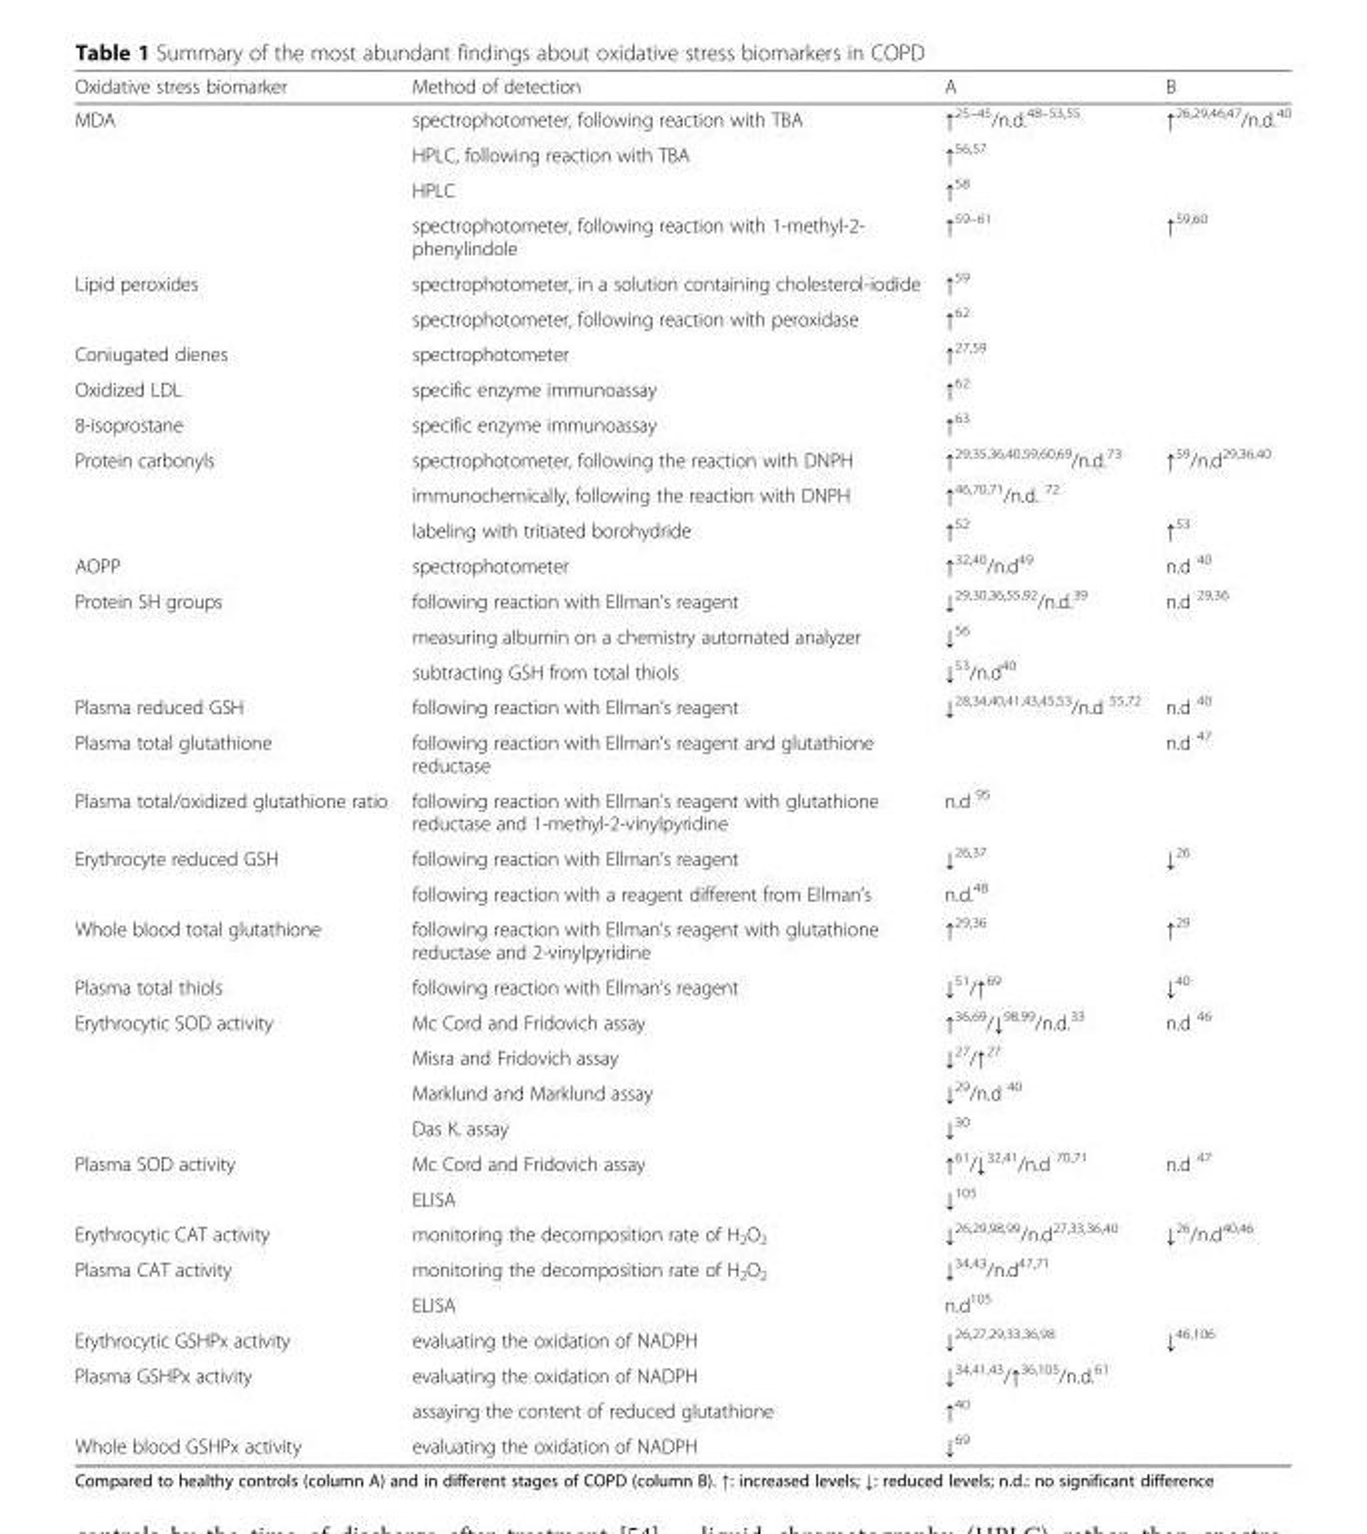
<table><thead><tr><td>Oxidative stress biomarker</td><td>Method of detection</td><td>A</td><td>B</td></tr></thead><tbody><tr><td rowspan="4">MDA</td><td>spectrophotometer, following reaction with TBA</td><td>↑<sup>25–45</sup>/n.d.<sup>48–53,55</sup></td><td>↑<sup>26,29,46,47</sup>/n.d.<sup>40</sup></td></tr><tr><td>HPLC, following reaction with TBA</td><td>↑<sup>56,57</sup></td><td></td></tr><tr><td>HPLC</td><td>↑<sup>58</sup></td><td></td></tr><tr><td>spectrophotometer, following reaction with 1-methyl-2- phenylindole</td><td>↑<sup>59–61</sup></td><td>↑<sup>59,60</sup></td></tr><tr><td rowspan="2">Lipid peroxides</td><td>spectrophotometer, in a solution containing cholesterol-iodide</td><td>↑<sup>59</sup></td><td></td></tr><tr><td>spectrophotometer, following reaction with peroxidase</td><td>↑<sup>62</sup></td><td></td></tr><tr><td>Coniugated dienes</td><td>spectrophotometer</td><td>↑<sup>27,59</sup></td><td></td></tr><tr><td>Oxidized LDL</td><td>specific enzyme immunoassay</td><td>↑<sup>62</sup></td><td></td></tr><tr><td>8-isoprostane</td><td>specific enzyme immunoassay</td><td>↑<sup>63</sup></td><td></td></tr><tr><td rowspan="3">Protein carbonyls</td><td>spectrophotometer, following the reaction with DNPH</td><td>↑<sup>29,35,36,40,59,60,69</sup>/n.d.<sup>73</sup></td><td>↑<sup>59</sup>/n.d<sup>29,36,40</sup></td></tr><tr><td>immunochemically, following the reaction with DNPH</td><td>↑<sup>46,70,71</sup>/n.d. <sup>72</sup></td><td></td></tr><tr><td>labeling with tritiated borohydride</td><td>↑<sup>52</sup></td><td>↑<sup>53</sup></td></tr><tr><td>AOPP</td><td>spectrophotometer</td><td>↑<sup>32,40</sup>/n.d<sup>49</sup></td><td>n.d <sup>40</sup></td></tr><tr><td rowspan="3">Protein SH groups</td><td>following reaction with Ellman’s reagent</td><td>↓<sup>29,30,36,55,92</sup>/n.d.<sup>39</sup></td><td>n.d <sup>29,36</sup></td></tr><tr><td>measuring albumin on a chemistry automated analyzer</td><td>↓<sup>56</sup></td><td></td></tr><tr><td>subtracting GSH from total thiols</td><td>↓<sup>53</sup>/n.d<sup>40</sup></td><td></td></tr><tr><td>Plasma reduced GSH</td><td>following reaction with Ellman’s reagent</td><td>↓<sup>28,34,40,41,43,45,53</sup>/n.d <sup>55,72</sup></td><td>n.d <sup>40</sup></td></tr><tr><td>Plasma total glutathione</td><td>following reaction with Ellman’s reagent and glutathione reductase</td><td></td><td>n.d <sup>47</sup></td></tr><tr><td>Plasma total/oxidized glutathione ratio</td><td>following reaction with Ellman’s reagent with glutathione reductase and 1-methyl-2-vinylpyridine</td><td>n.d <sup>95</sup></td><td></td></tr><tr><td rowspan="2">Erythrocyte reduced GSH</td><td>following reaction with Ellman’s reagent</td><td>↓<sup>26,37</sup></td><td>↓<sup>26</sup></td></tr><tr><td>following reaction with a reagent different from Ellman’s</td><td>n.d.<sup>48</sup></td><td></td></tr><tr><td>Whole blood total glutathione</td><td>following reaction with Ellman’s reagent with glutathione reductase and 2-vinylpyridine</td><td>↑<sup>29,36</sup></td><td>↑<sup>29</sup></td></tr><tr><td>Plasma total thiols</td><td>following reaction with Ellman’s reagent</td><td>↓<sup>51</sup>/↑<sup>69</sup></td><td>↓<sup>40</sup></td></tr><tr><td rowspan="4">Erythrocytic SOD activity</td><td>Mc Cord and Fridovich assay</td><td>↑<sup>36,69</sup>/↓<sup>98,99</sup>/n.d.<sup>33</sup></td><td>n.d <sup>46</sup></td></tr><tr><td>Misra and Fridovich assay</td><td>↓<sup>27</sup>/↑<sup>27</sup></td><td></td></tr><tr><td>Marklund and Marklund assay</td><td>↓<sup>29</sup>/n.d <sup>40</sup></td><td></td></tr><tr><td>Das K. assay</td><td>↓<sup>30</sup></td><td></td></tr><tr><td rowspan="2">Plasma SOD activity</td><td>Mc Cord and Fridovich assay</td><td>↑<sup>61</sup>/↓<sup>32,41</sup>/n.d <sup>70,71</sup></td><td>n.d <sup>47</sup></td></tr><tr><td>ELISA</td><td>↓<sup>105</sup></td><td></td></tr><tr><td>Erythrocytic CAT activity</td><td>monitoring the decomposition rate of H<sub>2</sub>O<sub>2</sub></td><td>↓<sup>26,29,98,99</sup>/n.d<sup>27,33,36,40</sup></td><td>↓<sup>26</sup>/n.d<sup>40,46</sup></td></tr><tr><td rowspan="2">Plasma CAT activity</td><td>monitoring the decomposition rate of H<sub>2</sub>O<sub>2</sub></td><td>↓<sup>34,43</sup>/n.d<sup>47,71</sup></td><td></td></tr><tr><td>ELISA</td><td>n.d<sup>105</sup></td><td></td></tr><tr><td>Erythrocytic GSHPx activity</td><td>evaluating the oxidation of NADPH</td><td>↓<sup>26,27,29,33,36,98</sup></td><td>↓<sup>46,106</sup></td></tr><tr><td rowspan="2">Plasma GSHPx activity</td><td>evaluating the oxidation of NADPH</td><td>↓<sup>34,41,43</sup>/↑<sup>36,105</sup>/n.d.<sup>61</sup></td><td></td></tr><tr><td>assaying the content of reduced glutathione</td><td>↑<sup>40</sup></td><td></td></tr><tr><td>Whole blood GSHPx activity</td><td>evaluating the oxidation of NADPH</td><td>↓<sup>69</sup></td><td></td></tr></tbody></table>